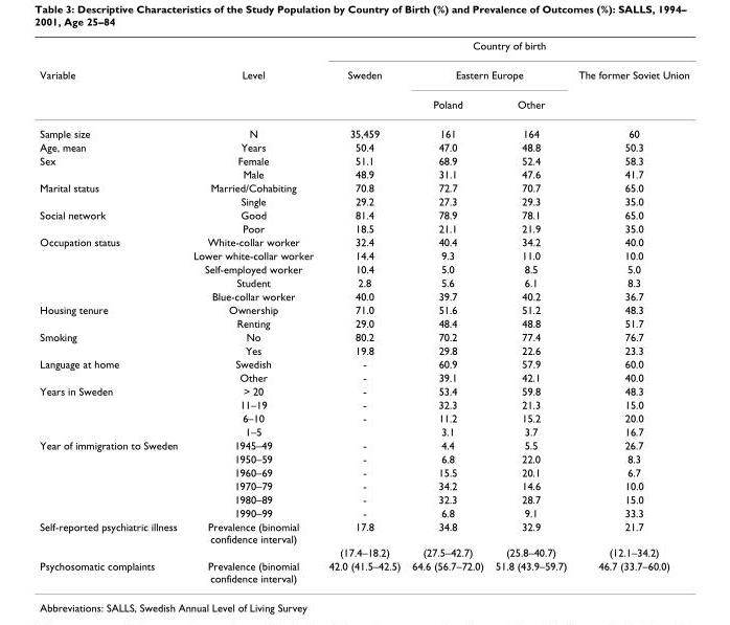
<table><thead><tr><td rowspan="3">Variable</td><td rowspan="3">Level</td><td colspan="4">Country of birth</td></tr><tr><td rowspan="2">Sweden</td><td colspan="2">Eastern Europe</td><td rowspan="2">The former Soviet Union</td></tr><tr><td>Poland</td><td>Other</td></tr></thead><tbody><tr><td>Sample size</td><td>N</td><td>35,459</td><td>161</td><td>164</td><td>60</td></tr><tr><td>Age, mean</td><td>Years</td><td>50.4</td><td>47.0</td><td>48.8</td><td>50.3</td></tr><tr><td rowspan="2">Sex</td><td>Female</td><td>51.1</td><td>68.9</td><td>52.4</td><td>58.3</td></tr><tr><td>Male</td><td>48.9</td><td>31.1</td><td>47.6</td><td>41.7</td></tr><tr><td rowspan="2">Marital status</td><td>Married/Cohabiting</td><td>70.8</td><td>72.7</td><td>70.7</td><td>65.0</td></tr><tr><td>Single</td><td>29.2</td><td>27.3</td><td>29.3</td><td>35.0</td></tr><tr><td rowspan="2">Social network</td><td>Good</td><td>81.4</td><td>78.9</td><td>78.1</td><td>65.0</td></tr><tr><td>Poor</td><td>18.5</td><td>21.1</td><td>21.9</td><td>35.0</td></tr><tr><td rowspan="5">Occupation status</td><td>White-collar worker</td><td>32.4</td><td>40.4</td><td>34.2</td><td>40.0</td></tr><tr><td>Lower white-collar worker</td><td>14.4</td><td>9.3</td><td>11.0</td><td>10.0</td></tr><tr><td>Self-employed worker</td><td>10.4</td><td>5.0</td><td>8.5</td><td>5.0</td></tr><tr><td>Student</td><td>2.8</td><td>5.6</td><td>6.1</td><td>8.3</td></tr><tr><td>Blue-collar worker</td><td>40.0</td><td>39.7</td><td>40.2</td><td>36.7</td></tr><tr><td rowspan="2">Housing tenure</td><td>Ownership</td><td>71.0</td><td>51.6</td><td>51.2</td><td>48.3</td></tr><tr><td>Renting</td><td>29.0</td><td>48.4</td><td>48.8</td><td>51.7</td></tr><tr><td rowspan="2">Smoking</td><td>No</td><td>80.2</td><td>70.2</td><td>77.4</td><td>76.7</td></tr><tr><td>Yes</td><td>19.8</td><td>29.8</td><td>22.6</td><td>23.3</td></tr><tr><td rowspan="2">Language at home</td><td>Swedish</td><td>-</td><td>60.9</td><td>57.9</td><td>60.0</td></tr><tr><td>Other</td><td>-</td><td>39.1</td><td>42.1</td><td>40.0</td></tr><tr><td rowspan="4">Years in Sweden</td><td>&gt; 20</td><td>-</td><td>53.4</td><td>59.8</td><td>48.3</td></tr><tr><td>11–19</td><td>-</td><td>32.3</td><td>21.3</td><td>15.0</td></tr><tr><td>6–10</td><td>-</td><td>11.2</td><td>15.2</td><td>20.0</td></tr><tr><td>1–5</td><td></td><td>3.1</td><td>3.7</td><td>16.7</td></tr><tr><td rowspan="6">Year of immigration to Sweden</td><td>1945–49</td><td>-</td><td>4.4</td><td>5.5</td><td>26.7</td></tr><tr><td>1950–59</td><td>-</td><td>6.8</td><td>22.0</td><td>8.3</td></tr><tr><td>1960–69</td><td>-</td><td>15.5</td><td>20.1</td><td>6.7</td></tr><tr><td>1970–79</td><td>-</td><td>34.2</td><td>14.6</td><td>10.0</td></tr><tr><td>1980–89</td><td>-</td><td>32.3</td><td>28.7</td><td>15.0</td></tr><tr><td>1990–99</td><td>-</td><td>6.8</td><td>9.1</td><td>33.3</td></tr><tr><td rowspan="2">Self-reported psychiatric illness</td><td>Prevalence (binomial confidence interval)</td><td>17.8</td><td>34.8</td><td>32.9</td><td>21.7</td></tr><tr><td></td><td>(17.4–18.2)</td><td>(27.5–42.7)</td><td>(25.8–40.7)</td><td>(12.1–34.2)</td></tr><tr><td>Psychosomatic complaints</td><td>Prevalence (binomial confidence interval)</td><td>42.0 (41.5–42.5)</td><td>64.6 (56.7–72.0)</td><td>51.8 (43.9–59.7)</td><td>46.7 (33.7–60.0)</td></tr></tbody></table>